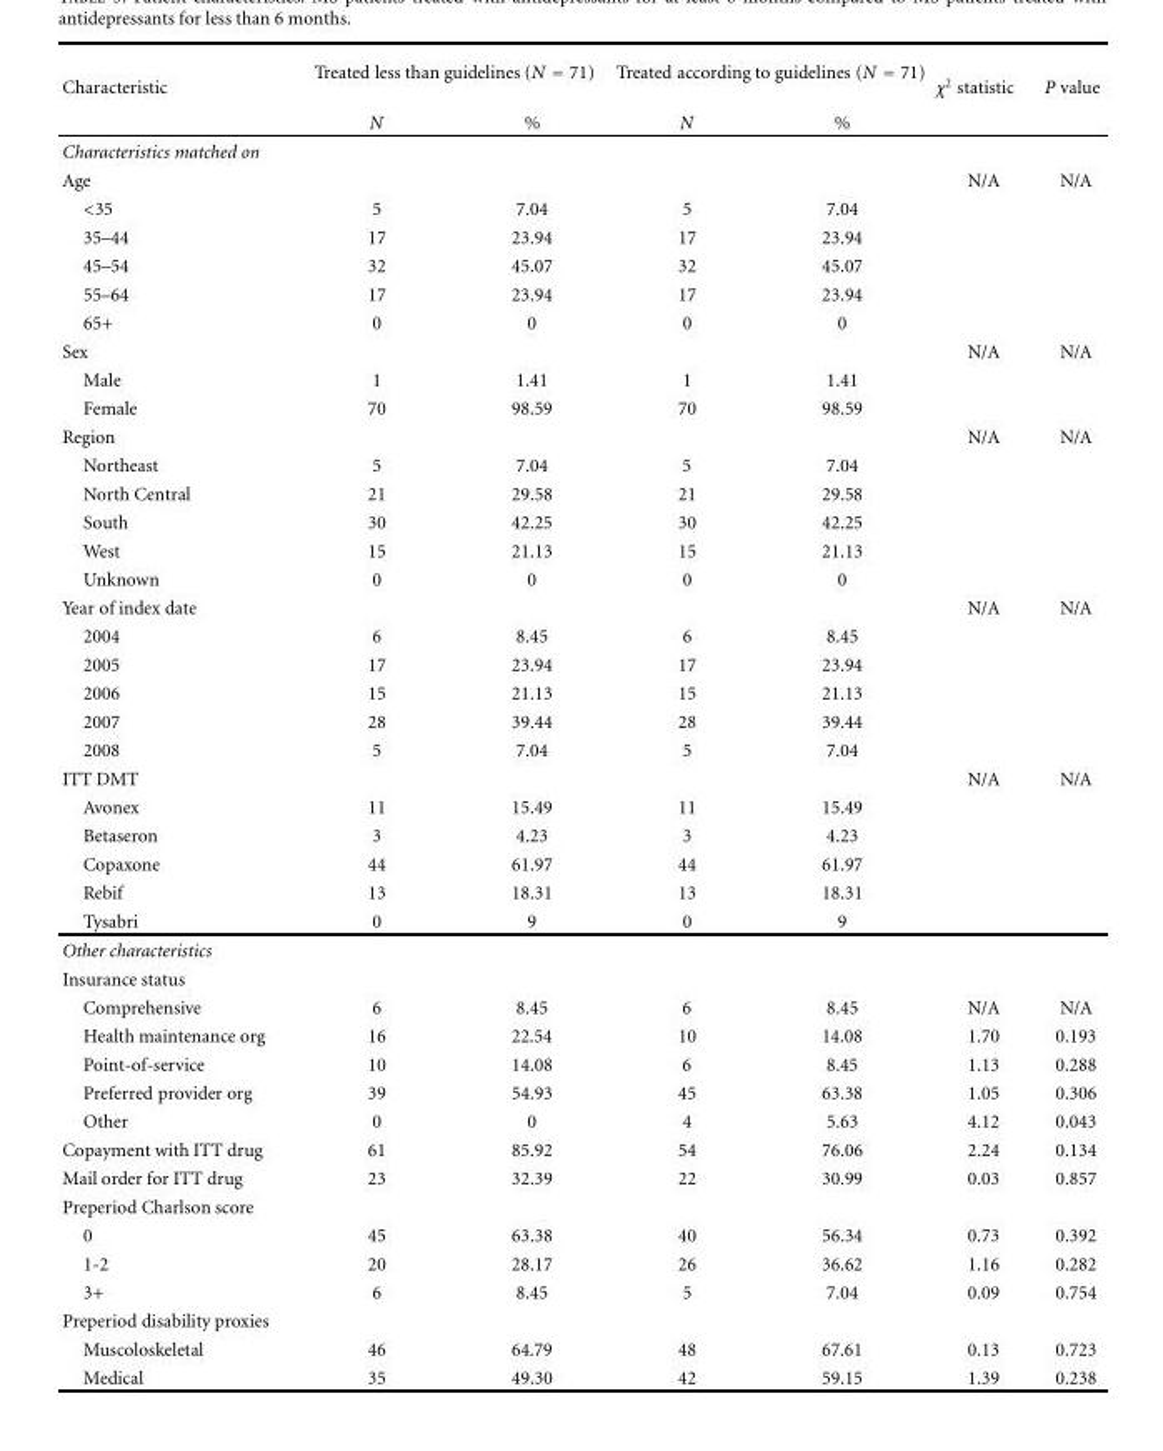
<table><thead><tr><td rowspan="2">Characteristic</td><td colspan="2">Treated less than guidelines (N = 71)</td><td colspan="2">Treated according to guidelines (N = 71)</td><td rowspan="2">χ<sup>2</sup> statistic</td><td rowspan="2">P value</td></tr><tr><td>N</td><td>%</td><td>N</td><td>%</td></tr></thead><tbody><tr><td colspan="7">Characteristics matched on</td></tr><tr><td>Age</td><td></td><td></td><td></td><td></td><td>N/A</td><td>N/A</td></tr><tr><td>&lt;35</td><td>5</td><td>7.04</td><td>5</td><td>7.04</td><td></td><td></td></tr><tr><td>35–44</td><td>17</td><td>23.94</td><td>17</td><td>23.94</td><td></td><td></td></tr><tr><td>45–54</td><td>32</td><td>45.07</td><td>32</td><td>45.07</td><td></td><td></td></tr><tr><td>55–64</td><td>17</td><td>23.94</td><td>17</td><td>23.94</td><td></td><td></td></tr><tr><td>65+</td><td>0</td><td>0</td><td>0</td><td>0</td><td></td><td></td></tr><tr><td>Sex</td><td></td><td></td><td></td><td></td><td>N/A</td><td>N/A</td></tr><tr><td>Male</td><td>1</td><td>1.41</td><td>1</td><td>1.41</td><td></td><td></td></tr><tr><td>Female</td><td>70</td><td>98.59</td><td>70</td><td>98.59</td><td></td><td></td></tr><tr><td>Region</td><td></td><td></td><td></td><td></td><td>N/A</td><td>N/A</td></tr><tr><td>Northeast</td><td>5</td><td>7.04</td><td>5</td><td>7.04</td><td></td><td></td></tr><tr><td>North Central</td><td>21</td><td>29.58</td><td>21</td><td>29.58</td><td></td><td></td></tr><tr><td>South</td><td>30</td><td>42.25</td><td>30</td><td>42.25</td><td></td><td></td></tr><tr><td>West</td><td>15</td><td>21.13</td><td>15</td><td>21.13</td><td></td><td></td></tr><tr><td>Unknown</td><td>0</td><td>0</td><td>0</td><td>0</td><td></td><td></td></tr><tr><td>Year of index date</td><td></td><td></td><td></td><td></td><td>N/A</td><td>N/A</td></tr><tr><td>2004</td><td>6</td><td>8.45</td><td>6</td><td>8.45</td><td></td><td></td></tr><tr><td>2005</td><td>17</td><td>23.94</td><td>17</td><td>23.94</td><td></td><td></td></tr><tr><td>2006</td><td>15</td><td>21.13</td><td>15</td><td>21.13</td><td></td><td></td></tr><tr><td>2007</td><td>28</td><td>39.44</td><td>28</td><td>39.44</td><td></td><td></td></tr><tr><td>2008</td><td>5</td><td>7.04</td><td>5</td><td>7.04</td><td></td><td></td></tr><tr><td>ITT DMT</td><td></td><td></td><td></td><td></td><td>N/A</td><td>N/A</td></tr><tr><td>Avonex</td><td>11</td><td>15.49</td><td>11</td><td>15.49</td><td></td><td></td></tr><tr><td>Betaseron</td><td>3</td><td>4.23</td><td>3</td><td>4.23</td><td></td><td></td></tr><tr><td>Copaxone</td><td>44</td><td>61.97</td><td>44</td><td>61.97</td><td></td><td></td></tr><tr><td>Rebif</td><td>13</td><td>18.31</td><td>13</td><td>18.31</td><td></td><td></td></tr><tr><td>Tysabri</td><td>0</td><td>9</td><td>0</td><td>9</td><td></td><td></td></tr><tr><td colspan="7">Other characteristics</td></tr><tr><td colspan="7">Insurance status</td></tr><tr><td>Comprehensive</td><td>6</td><td>8.45</td><td>6</td><td>8.45</td><td>N/A</td><td>N/A</td></tr><tr><td>Health maintenance org</td><td>16</td><td>22.54</td><td>10</td><td>14.08</td><td>1.70</td><td>0.193</td></tr><tr><td>Point-of-service</td><td>10</td><td>14.08</td><td>6</td><td>8.45</td><td>1.13</td><td>0.288</td></tr><tr><td>Preferred provider org</td><td>39</td><td>54.93</td><td>45</td><td>63.38</td><td>1.05</td><td>0.306</td></tr><tr><td>Other</td><td>0</td><td>0</td><td>4</td><td>5.63</td><td>4.12</td><td>0.043</td></tr><tr><td>Copayment with ITT drug</td><td>61</td><td>85.92</td><td>54</td><td>76.06</td><td>2.24</td><td>0.134</td></tr><tr><td>Mail order for ITT drug</td><td>23</td><td>32.39</td><td>22</td><td>30.99</td><td>0.03</td><td>0.857</td></tr><tr><td colspan="7">Preperiod Charlson score</td></tr><tr><td>0</td><td>45</td><td>63.38</td><td>40</td><td>56.34</td><td>0.73</td><td>0.392</td></tr><tr><td>1-2</td><td>20</td><td>28.17</td><td>26</td><td>36.62</td><td>1.16</td><td>0.282</td></tr><tr><td>3+</td><td>6</td><td>8.45</td><td>5</td><td>7.04</td><td>0.09</td><td>0.754</td></tr><tr><td colspan="7">Preperiod disability proxies</td></tr><tr><td>Muscoloskeletal</td><td>46</td><td>64.79</td><td>48</td><td>67.61</td><td>0.13</td><td>0.723</td></tr><tr><td>Medical</td><td>35</td><td>49.30</td><td>42</td><td>59.15</td><td>1.39</td><td>0.238</td></tr></tbody></table>